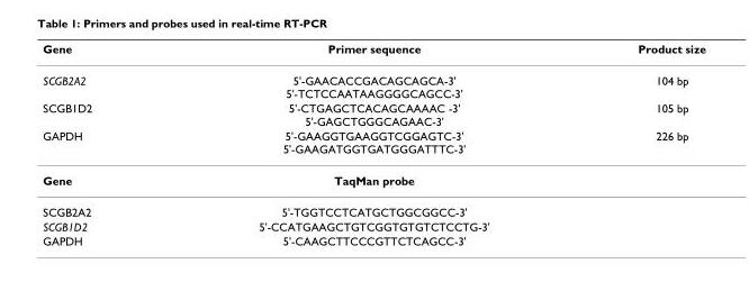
<table><thead><tr><td>Gene</td><td>Primer sequence</td><td>Product size</td></tr></thead><tbody><tr><td>SCGB2A2</td><td>5&#x27;-GAACACCGACAGCAGCA-3&#x27; 5&#x27;-TCTCCAATAAGGGGCAGCC-3&#x27;</td><td>104 bp</td></tr><tr><td>SCGB1D2</td><td>5&#x27;-CTGAGCTCACAGCAAAAC -3&#x27; 5&#x27;-GAGCTGGGCAGAAC-3&#x27;</td><td>105 bp</td></tr><tr><td>GAPDH</td><td>5&#x27;-GAAGGTGAAGGTCGGAGTC-3&#x27; 5&#x27;-GAAGATGGTGATGGGATTTC-3&#x27;</td><td>226 bp</td></tr><tr><td>Gene</td><td>TaqMan probe</td><td></td></tr><tr><td>SCGB2A2</td><td>5&#x27;-TGGTCCTCATGCTGGCGGCC-3&#x27;</td><td></td></tr><tr><td>SCGB1D2</td><td>5&#x27;-CCATGAAGCTGTCGGTGTGTCTCCTG-3&#x27;</td><td></td></tr><tr><td>GAPDH</td><td>5&#x27;-CAAGCTTCCCGTTCTCAGCC-3&#x27;</td><td></td></tr></tbody></table>